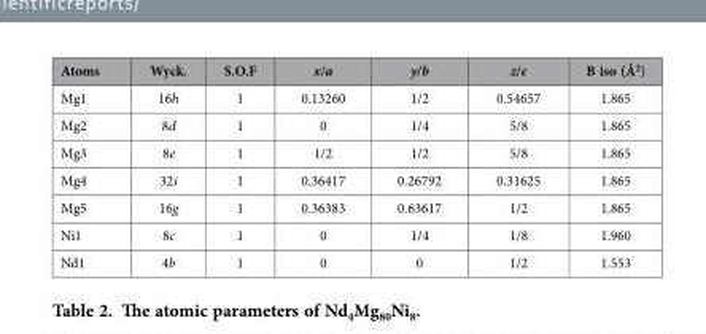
<table><thead><tr><td>Atoms</td><td>Wyck.</td><td>S.O.F</td><td>x/a</td><td>y/b</td><td>z/c</td><td>B iso (Å<sup>2</sup>)</td></tr></thead><tbody><tr><td>Mg1</td><td>16h</td><td>1</td><td>0.13260</td><td>1/2</td><td>0.54657</td><td>1.865</td></tr><tr><td>Mg2</td><td>8d</td><td>1</td><td>0</td><td>1/4</td><td>5/8</td><td>1.865</td></tr><tr><td>Mg3</td><td>8e</td><td>1</td><td>1/2</td><td>1/2</td><td>5/8</td><td>1.865</td></tr><tr><td>Mg4</td><td>32i</td><td>1</td><td>0.36417</td><td>0.26792</td><td>0.31625</td><td>1.865</td></tr><tr><td>Mg5</td><td>16g</td><td>1</td><td>0.36383</td><td>0.63617</td><td>1/2</td><td>1.865</td></tr><tr><td>Ni1</td><td>8c</td><td>1</td><td>0</td><td>1/4</td><td>1/8</td><td>1.960</td></tr><tr><td>Nd1</td><td>4b</td><td>1</td><td>0</td><td>0</td><td>1/2</td><td>1.553</td></tr></tbody></table>